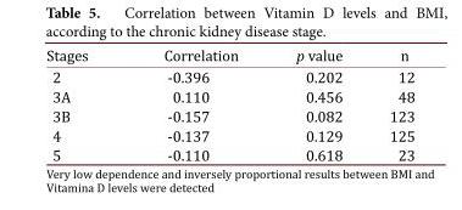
<table><thead><tr><td>Stages</td><td>Correlation</td><td>p value</td><td>n</td></tr></thead><tbody><tr><td>2</td><td>-0.396</td><td>0.202</td><td>12</td></tr><tr><td>3A</td><td>0.110</td><td>0.456</td><td>48</td></tr><tr><td>3B</td><td>-0.157</td><td>0.082</td><td>123</td></tr><tr><td>4</td><td>-0.137</td><td>0.129</td><td>125</td></tr><tr><td>5</td><td>-0.110</td><td>0.618</td><td>23</td></tr></tbody></table>